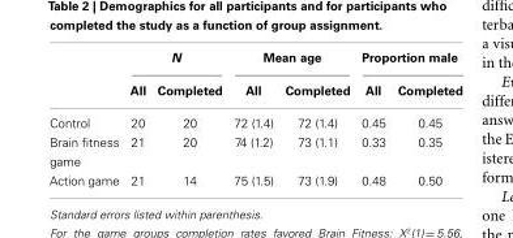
<table><thead><tr><td rowspan="2"></td><td colspan="2">N</td><td colspan="2">Mean age</td><td colspan="2">Proportion male</td></tr><tr><td>All</td><td>Completed</td><td>All</td><td>Completed</td><td>All</td><td>Completed</td></tr></thead><tbody><tr><td>Control</td><td>20</td><td>20</td><td>72 (1.4)</td><td>72 (1.4)</td><td>0.45</td><td>0.45</td></tr><tr><td>Brain fitness game</td><td>21</td><td>20</td><td>74 (1.2)</td><td>73 (1.1)</td><td>0.33</td><td>0.35</td></tr><tr><td>Action game</td><td>21</td><td>14</td><td>75 (1.5)</td><td>73 (1.9)</td><td>0.48</td><td>0.50</td></tr></tbody></table>